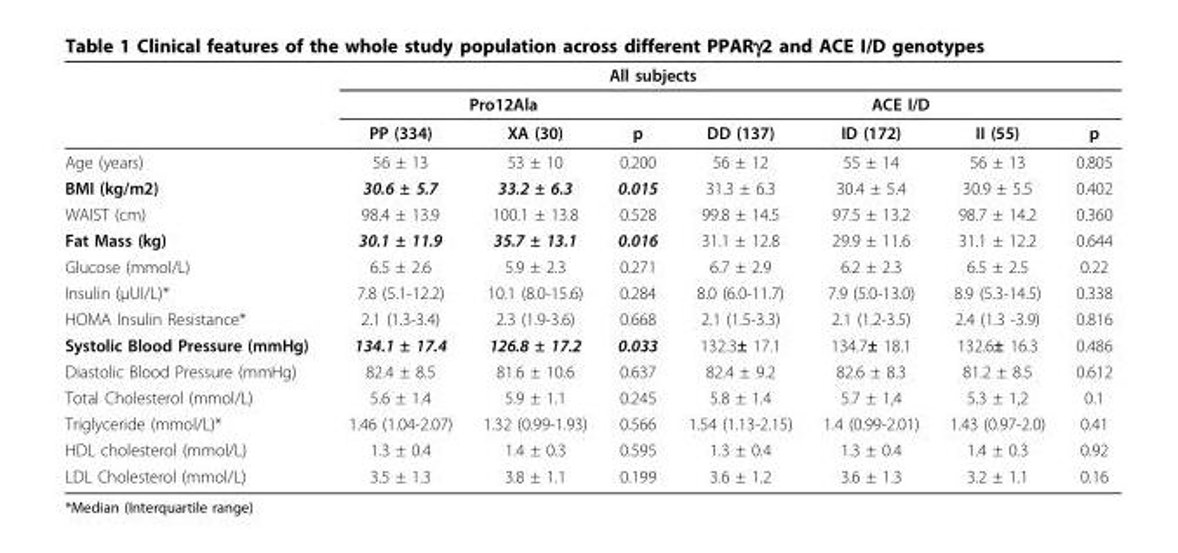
<table><thead><tr><td rowspan="3"></td><td></td><td></td><td colspan="5">All subjects</td></tr><tr><td colspan="3">Pro12Ala</td><td colspan="4">ACE I/D</td></tr><tr><td>PP (334)</td><td>XA (30)</td><td>p</td><td>DD (137)</td><td>ID (172)</td><td>II (55)</td><td>p</td></tr></thead><tbody><tr><td>Age (years)</td><td>56 ± 13</td><td>53 ± 10</td><td>0.200</td><td>56 ± 12</td><td>55 ± 14</td><td>56 ± 13</td><td>0.805</td></tr><tr><td>BMI (kg/m2)</td><td>30.6 ± 5.7</td><td>33.2 ± 6.3</td><td>0.015</td><td>31.3 ± 6.3</td><td>30.4 ± 5.4</td><td>30.9 ± 5.5</td><td>0.402</td></tr><tr><td>WAIST (cm)</td><td>98.4 ± 13.9</td><td>100.1 ± 13.8</td><td>0.528</td><td>99.8 ± 14.5</td><td>97.5 ± 13.2</td><td>98.7 ± 14.2</td><td>0.360</td></tr><tr><td>Fat Mass (kg)</td><td>30.1 ± 11.9</td><td>35.7 ± 13.1</td><td>0.016</td><td>31.1 ± 12.8</td><td>29.9 ± 11.6</td><td>31.1 ± 12.2</td><td>0.644</td></tr><tr><td>Glucose (mmol/L)</td><td>6.5 ± 2.6</td><td>5.9 ± 2.3</td><td>0.271</td><td>6.7 ± 2.9</td><td>6.2 ± 2.3</td><td>6.5 ± 2.5</td><td>0.22</td></tr><tr><td>Insulin (μUI/L)*</td><td>7.8 (5.1-12.2)</td><td>10.1 (8.0-15.6)</td><td>0.284</td><td>8.0 (6.0-11.7)</td><td>7.9 (5.0-13.0)</td><td>8.9 (5.3-14.5)</td><td>0.338</td></tr><tr><td>HOMA Insulin Resistance*</td><td>2.1 (1.3-3.4)</td><td>2.3 (1.9-3.6)</td><td>0.668</td><td>2.1 (1.5-3.3)</td><td>2.1 (1.2-3.5)</td><td>2.4 (1.3 -3.9)</td><td>0.816</td></tr><tr><td>Systolic Blood Pressure (mmHg)</td><td>134.1 ± 17.4</td><td>126.8 ± 17.2</td><td>0.033</td><td>132.3± 17.1</td><td>134.7± 18.1</td><td>132.6± 16.3</td><td>0.486</td></tr><tr><td>Diastolic Blood Pressure (mmHg)</td><td>82.4 ± 8.5</td><td>81.6 ± 10.6</td><td>0.637</td><td>82.4 ± 9.2</td><td>82.6 ± 8.3</td><td>81.2 ± 8.5</td><td>0.612</td></tr><tr><td>Total Cholesterol (mmol/L)</td><td>5.6 ± 1.4</td><td>5.9 ± 1.1</td><td>0.245</td><td>5.8 ± 1.4</td><td>5.7 ± 1,4</td><td>5.3 ± 1,2</td><td>0.1</td></tr><tr><td>Triglyceride (mmol/L)*</td><td>1.46 (1.04-2.07)</td><td>1.32 (0.99-1.93)</td><td>0.566</td><td>1.54 (1.13-2.15)</td><td>1.4 (0.99-2.01)</td><td>1.43 (0.97-2.0)</td><td>0.41</td></tr><tr><td>HDL cholesterol (mmol/L)</td><td>1.3 ± 0.4</td><td>1.4 ± 0.3</td><td>0.595</td><td>1.3 ± 0.4</td><td>1.3 ± 0.4</td><td>1.4 ± 0.3</td><td>0.92</td></tr><tr><td>LDL Cholesterol (mmol/L)</td><td>3.5 ± 1.3</td><td>3.8 ± 1.1</td><td>0.199</td><td>3.6 ± 1.2</td><td>3.6 ± 1.3</td><td>3.2 ± 1.1</td><td>0.16</td></tr></tbody></table>